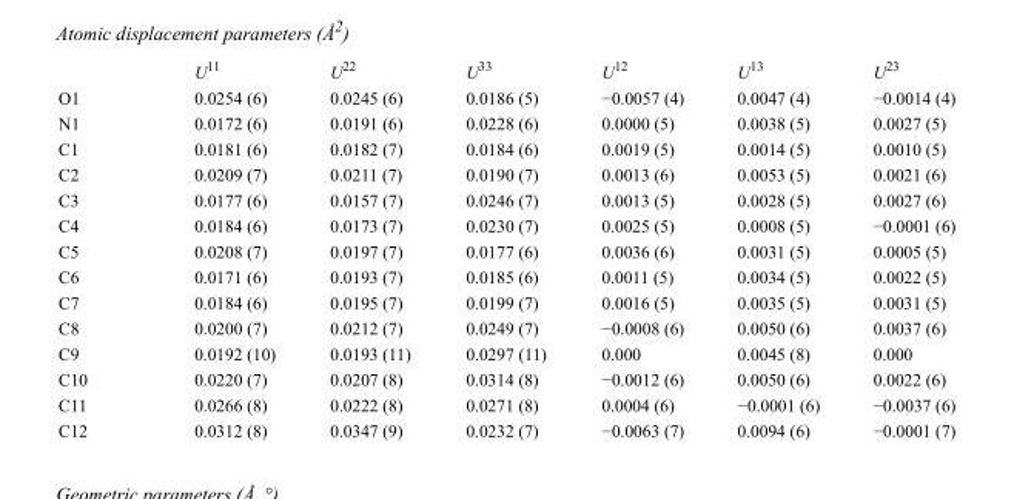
<table><thead><tr><td></td><td>U<sup>11</sup></td><td>U<sup>22</sup></td><td>U<sup>33</sup></td><td>U<sup>12</sup></td><td>U<sup>13</sup></td><td>U<sup>23</sup></td></tr></thead><tbody><tr><td>O1</td><td>0.0254 (6)</td><td>0.0245 (6)</td><td>0.0186 (5)</td><td>−0.0057 (4)</td><td>0.0047 (4)</td><td>−0.0014 (4)</td></tr><tr><td>N1</td><td>0.0172 (6)</td><td>0.0191 (6)</td><td>0.0228 (6)</td><td>0.0000 (5)</td><td>0.0038 (5)</td><td>0.0027 (5)</td></tr><tr><td>C1</td><td>0.0181 (6)</td><td>0.0182 (7)</td><td>0.0184 (6)</td><td>0.0019 (5)</td><td>0.0014 (5)</td><td>0.0010 (5)</td></tr><tr><td>C2</td><td>0.0209 (7)</td><td>0.0211 (7)</td><td>0.0190 (7)</td><td>0.0013 (6)</td><td>0.0053 (5)</td><td>0.0021 (6)</td></tr><tr><td>C3</td><td>0.0177 (6)</td><td>0.0157 (7)</td><td>0.0246 (7)</td><td>0.0013 (5)</td><td>0.0028 (5)</td><td>0.0027 (6)</td></tr><tr><td>C4</td><td>0.0184 (6)</td><td>0.0173 (7)</td><td>0.0230 (7)</td><td>0.0025 (5)</td><td>0.0008 (5)</td><td>−0.0001 (6)</td></tr><tr><td>C5</td><td>0.0208 (7)</td><td>0.0197 (7)</td><td>0.0177 (6)</td><td>0.0036 (6)</td><td>0.0031 (5)</td><td>0.0005 (5)</td></tr><tr><td>C6</td><td>0.0171 (6)</td><td>0.0193 (7)</td><td>0.0185 (6)</td><td>0.0011 (5)</td><td>0.0034 (5)</td><td>0.0022 (5)</td></tr><tr><td>C7</td><td>0.0184 (6)</td><td>0.0195 (7)</td><td>0.0199 (7)</td><td>0.0016 (5)</td><td>0.0035 (5)</td><td>0.0031 (5)</td></tr><tr><td>C8</td><td>0.0200 (7)</td><td>0.0212 (7)</td><td>0.0249 (7)</td><td>−0.0008 (6)</td><td>0.0050 (6)</td><td>0.0037 (6)</td></tr><tr><td>C9</td><td>0.0192 (10)</td><td>0.0193 (11)</td><td>0.0297 (11)</td><td>0.000</td><td>0.0045 (8)</td><td>0.000</td></tr><tr><td>C10</td><td>0.0220 (7)</td><td>0.0207 (8)</td><td>0.0314 (8)</td><td>−0.0012 (6)</td><td>0.0050 (6)</td><td>0.0022 (6)</td></tr><tr><td>C11</td><td>0.0266 (8)</td><td>0.0222 (8)</td><td>0.0271 (8)</td><td>0.0004 (6)</td><td>−0.0001 (6)</td><td>−0.0037 (6)</td></tr><tr><td>C12</td><td>0.0312 (8)</td><td>0.0347 (9)</td><td>0.0232 (7)</td><td>−0.0063 (7)</td><td>0.0094 (6)</td><td>−0.0001 (7)</td></tr></tbody></table>